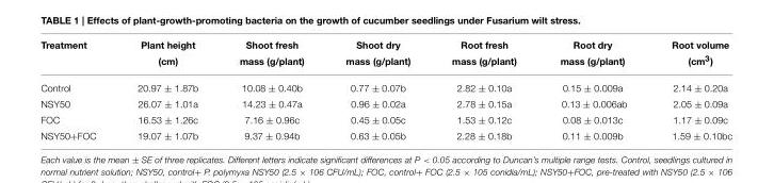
<table><thead><tr><td>Treatment</td><td>Plant height (cm)</td><td>Shoot fresh mass (g/plant)</td><td>Shoot dry mass (g/plant)</td><td>Root fresh mass (g/plant)</td><td>Root dry mass (g/plant)</td><td>Root volume (cm<sup>3</sup>)</td></tr></thead><tbody><tr><td>Control</td><td>20.97 ± 1.87b</td><td>10.08 ± 0.40b</td><td>0.77 ± 0.07b</td><td>2.82 ± 0.10a</td><td>0.15 ± 0.009a</td><td>2.14 ± 0.20a</td></tr><tr><td>NSY50</td><td>26.07 ± 1.01a</td><td>14.23 ± 0.47a</td><td>0.96 ± 0.02a</td><td>2.78 ± 0.15a</td><td>0.13 ± 0.006ab</td><td>2.05 ± 0.09a</td></tr><tr><td>FOC</td><td>16.53 ± 1.26c</td><td>7.16 ± 0.96c</td><td>0.45 ± 0.05c</td><td>1.53 ± 0.12c</td><td>0.08 ± 0.013c</td><td>1.17 ± 0.09c</td></tr><tr><td>NSY50+FOC</td><td>19.07 ± 1.07b</td><td>9.37 ± 0.94b</td><td>0.63 ± 0.05b</td><td>2.28 ± 0.18b</td><td>0.11 ± 0.009b</td><td>1.59 ± 0.10bc</td></tr></tbody></table>